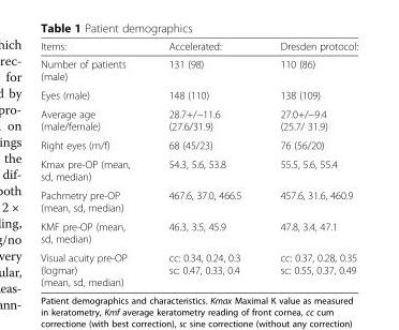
<table><thead><tr><td>Items:</td><td>Accelerated:</td><td>Dresden protocol:</td></tr></thead><tbody><tr><td>Number of patients (male)</td><td>131 (98)</td><td>110 (86)</td></tr><tr><td>Eyes (male)</td><td>148 (110)</td><td>138 (109)</td></tr><tr><td>Average age (male/female)</td><td>28.7+/−11.6 (27.6/31.9)</td><td>27.0+/−9.4 (25.7/ 31.9)</td></tr><tr><td>Right eyes (m/f)</td><td>68 (45/23)</td><td>76 (56/20)</td></tr><tr><td>Kmax pre-OP (mean, sd, median)</td><td>54.3, 5.6, 53.8</td><td>55.5, 5.6, 55.4</td></tr><tr><td>Pachmetry pre-OP (mean, sd, median)</td><td>467.6, 37.0, 466.5</td><td>457.6, 31.6, 460.9</td></tr><tr><td>KMF pre-OP (mean, sd, median)</td><td>46.3, 3.5, 45.9</td><td>47.8, 3.4, 47.1</td></tr><tr><td>Visual acuity pre-OP (logmar) (mean, sd, median)</td><td>cc: 0.34, 0.24, 0.3 sc: 0.47, 0.33, 0.4</td><td>cc: 0.37, 0.28, 0.35 sc: 0.55, 0.37, 0.49</td></tr></tbody></table>